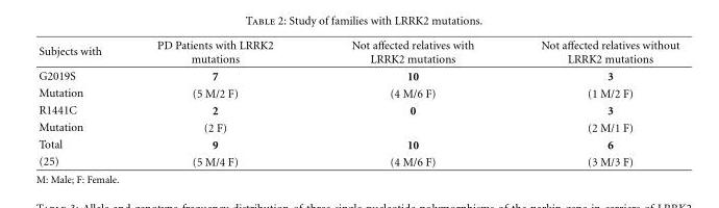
<table><thead><tr><td>Subjects with</td><td>PD Patients with LRRK2 mutations</td><td>Not affected relatives with LRRK2 mutations</td><td>Not affected relatives without LRRK2 mutations</td></tr></thead><tbody><tr><td>G2019S</td><td>7</td><td>10</td><td>3</td></tr><tr><td>Mutation</td><td>(5 M/2 F)</td><td>(4 M/6 F)</td><td>(1 M/2 F)</td></tr><tr><td>R1441C</td><td>2</td><td>0</td><td>3</td></tr><tr><td>Mutation</td><td>(2 F)</td><td></td><td>(2 M/1 F)</td></tr><tr><td>Total</td><td>9</td><td>10</td><td>6</td></tr><tr><td>(25)</td><td>(5 M/4 F)</td><td>(4 M/6 F)</td><td>(3 M/3 F)</td></tr></tbody></table>